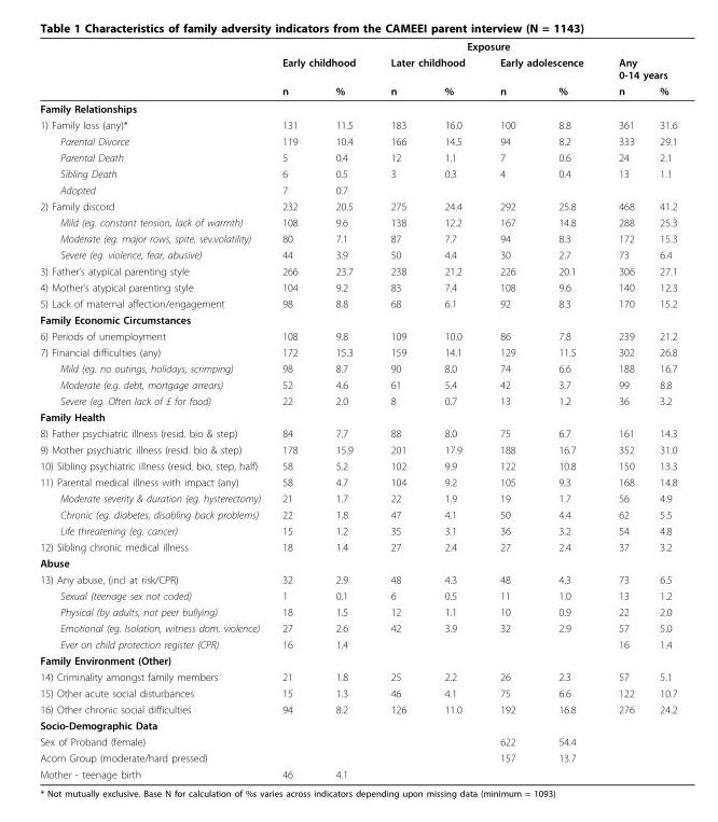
<table><thead><tr><td rowspan="3"></td><td colspan="8">Exposure</td></tr><tr><td colspan="2">Early childhood</td><td colspan="2">Later childhood</td><td colspan="2">Early adolescence</td><td colspan="2">Any 0-14 years</td></tr><tr><td>n</td><td>%</td><td>n</td><td>%</td><td>n</td><td>%</td><td>n</td><td>%</td></tr></thead><tbody><tr><td colspan="9">Family Relationships</td></tr><tr><td>1) Family loss (any)*</td><td>131</td><td>11.5</td><td>183</td><td>16.0</td><td>100</td><td>8.8</td><td>361</td><td>31.6</td></tr><tr><td>Parental Divorce</td><td>119</td><td>10.4</td><td>166</td><td>14.5</td><td>94</td><td>8.2</td><td>333</td><td>29.1</td></tr><tr><td>Parental Death</td><td>5</td><td>0.4</td><td>12</td><td>1.1</td><td>7</td><td>0.6</td><td>24</td><td>2.1</td></tr><tr><td>Sibling Death</td><td>6</td><td>0.5</td><td>3</td><td>0.3</td><td>4</td><td>0.4</td><td>13</td><td>1.1</td></tr><tr><td>Adopted</td><td>7</td><td>0.7</td><td></td><td></td><td></td><td></td><td></td><td></td></tr><tr><td>2) Family discord</td><td>232</td><td>20.5</td><td>275</td><td>24.4</td><td>292</td><td>25.8</td><td>468</td><td>41.2</td></tr><tr><td>Mild (eg. constant tension, lack of warmth)</td><td>108</td><td>9.6</td><td>138</td><td>12.2</td><td>167</td><td>14.8</td><td>288</td><td>25.3</td></tr><tr><td>Moderate (eg. major rows, spite, sev.volatility)</td><td>80</td><td>7.1</td><td>87</td><td>7.7</td><td>94</td><td>8.3</td><td>172</td><td>15.3</td></tr><tr><td>Severe (eg. violence, fear, abusive)</td><td>44</td><td>3.9</td><td>50</td><td>4.4</td><td>30</td><td>2.7</td><td>73</td><td>6.4</td></tr><tr><td>3) Father’s atypical parenting style</td><td>266</td><td>23.7</td><td>238</td><td>21.2</td><td>226</td><td>20.1</td><td>306</td><td>27.1</td></tr><tr><td>4) Mother’s atypical parenting style</td><td>104</td><td>9.2</td><td>83</td><td>7.4</td><td>108</td><td>9.6</td><td>140</td><td>12.3</td></tr><tr><td>5) Lack of maternal affection/engagement</td><td>98</td><td>8.8</td><td>68</td><td>6.1</td><td>92</td><td>8.3</td><td>170</td><td>15.2</td></tr><tr><td colspan="9">Family Economic Circumstances</td></tr><tr><td>6) Periods of unemployment</td><td>108</td><td>9.8</td><td>109</td><td>10.0</td><td>86</td><td>7.8</td><td>239</td><td>21.2</td></tr><tr><td>7) Financial difficulties (any)</td><td>172</td><td>15.3</td><td>159</td><td>14.1</td><td>129</td><td>11.5</td><td>302</td><td>26.8</td></tr><tr><td>Mild (eg. no outings, holidays, scrimping)</td><td>98</td><td>8.7</td><td>90</td><td>8.0</td><td>74</td><td>6.6</td><td>188</td><td>16.7</td></tr><tr><td>Moderate (e.g. debt, mortgage arrears)</td><td>52</td><td>4.6</td><td>61</td><td>5.4</td><td>42</td><td>3.7</td><td>99</td><td>8.8</td></tr><tr><td>Severe (eg. Often lack of £ for food)</td><td>22</td><td>2.0</td><td>8</td><td>0.7</td><td>13</td><td>1.2</td><td>36</td><td>3.2</td></tr><tr><td colspan="9">Family Health</td></tr><tr><td>8) Father psychiatric illness (resid. bio &amp; step)</td><td>84</td><td>7.7</td><td>88</td><td>8.0</td><td>75</td><td>6.7</td><td>161</td><td>14.3</td></tr><tr><td>9) Mother psychiatric illness (resid. bio &amp; step)</td><td>178</td><td>15.9</td><td>201</td><td>17.9</td><td>188</td><td>16.7</td><td>352</td><td>31.0</td></tr><tr><td>10) Sibling psychiatric illness (resid. bio, step, half)</td><td>58</td><td>5.2</td><td>102</td><td>9.9</td><td>122</td><td>10.8</td><td>150</td><td>13.3</td></tr><tr><td>11) Parental medical illness with impact (any)</td><td>58</td><td>4.7</td><td>104</td><td>9.2</td><td>105</td><td>9.3</td><td>168</td><td>14.8</td></tr><tr><td>Moderate severity &amp; duration (eg. hysterectomy)</td><td>21</td><td>1.7</td><td>22</td><td>1.9</td><td>19</td><td>1.7</td><td>56</td><td>4.9</td></tr><tr><td>Chronic (eg. diabetes, disabling back problems)</td><td>22</td><td>1.8</td><td>47</td><td>4.1</td><td>50</td><td>4.4</td><td>62</td><td>5.5</td></tr><tr><td>Life threatening (eg. cancer)</td><td>15</td><td>1.2</td><td>35</td><td>3.1</td><td>36</td><td>3.2</td><td>54</td><td>4.8</td></tr><tr><td>12) Sibling chronic medical illness</td><td>18</td><td>1.4</td><td>27</td><td>2.4</td><td>27</td><td>2.4</td><td>37</td><td>3.2</td></tr><tr><td colspan="9">Abuse</td></tr><tr><td>13) Any abuse, (incl at risk/CPR)</td><td>32</td><td>2.9</td><td>48</td><td>4.3</td><td>48</td><td>4.3</td><td>73</td><td>6.5</td></tr><tr><td>Sexual (teenage sex not coded)</td><td>1</td><td>0.1</td><td>6</td><td>0.5</td><td>11</td><td>1.0</td><td>13</td><td>1.2</td></tr><tr><td>Physical (by adults, not peer bullying)</td><td>18</td><td>1.5</td><td>12</td><td>1.1</td><td>10</td><td>0.9</td><td>22</td><td>2.0</td></tr><tr><td>Emotional (eg. Isolation, witness dom. violence)</td><td>27</td><td>2.6</td><td>42</td><td>3.9</td><td>32</td><td>2.9</td><td>57</td><td>5.0</td></tr><tr><td>Ever on child protection register (CPR)</td><td>16</td><td>1.4</td><td></td><td></td><td></td><td></td><td>16</td><td>1.4</td></tr><tr><td colspan="9">Family Environment (Other)</td></tr><tr><td>14) Criminality amongst family members</td><td>21</td><td>1.8</td><td>25</td><td>2.2</td><td>26</td><td>2.3</td><td>57</td><td>5.1</td></tr><tr><td>15) Other acute social disturbances</td><td>15</td><td>1.3</td><td>46</td><td>4.1</td><td>75</td><td>6.6</td><td>122</td><td>10.7</td></tr><tr><td>16) Other chronic social difficulties</td><td>94</td><td>8.2</td><td>126</td><td>11.0</td><td>192</td><td>16.8</td><td>276</td><td>24.2</td></tr><tr><td colspan="9">Socio-Demographic Data</td></tr><tr><td>Sex of Proband (female)</td><td></td><td></td><td></td><td></td><td>622</td><td>54.4</td><td></td><td></td></tr><tr><td>Acorn Group (moderate/hard pressed)</td><td></td><td></td><td></td><td></td><td>157</td><td>13.7</td><td></td><td></td></tr><tr><td>Mother - teenage birth</td><td>46</td><td>4.1</td><td></td><td></td><td></td><td></td><td></td><td></td></tr></tbody></table>